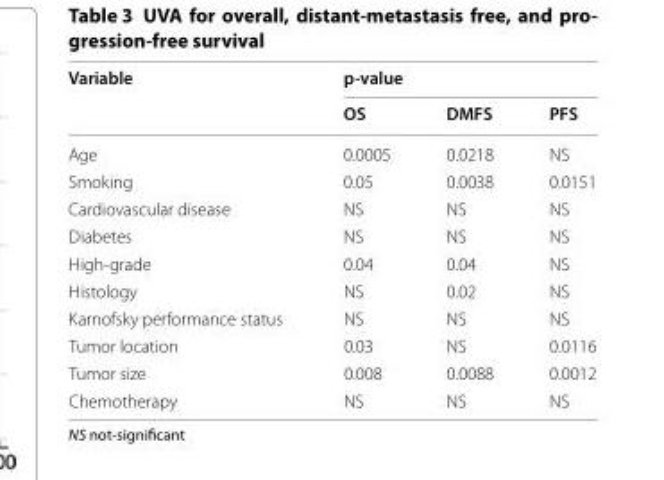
<table><thead><tr><td rowspan="2">Variable</td><td colspan="3">p-value</td></tr><tr><td>OS</td><td>DMFS</td><td>PFS</td></tr></thead><tbody><tr><td>Age</td><td>0.0005</td><td>0.0218</td><td>NS</td></tr><tr><td>Smoking</td><td>0.05</td><td>0.0038</td><td>0.0151</td></tr><tr><td>Cardiovascular disease</td><td>NS</td><td>NS</td><td>NS</td></tr><tr><td>Diabetes</td><td>NS</td><td>NS</td><td>NS</td></tr><tr><td>High-grade</td><td>0.04</td><td>0.04</td><td>NS</td></tr><tr><td>Histology</td><td>NS</td><td>0.02</td><td>NS</td></tr><tr><td>Karnofsky performance status</td><td>NS</td><td>NS</td><td>NS</td></tr><tr><td>Tumor location</td><td>0.03</td><td>NS</td><td>0.0116</td></tr><tr><td>Tumor size</td><td>0.008</td><td>0.0088</td><td>0.0012</td></tr><tr><td>Chemotherapy</td><td>NS</td><td>NS</td><td>NS</td></tr></tbody></table>